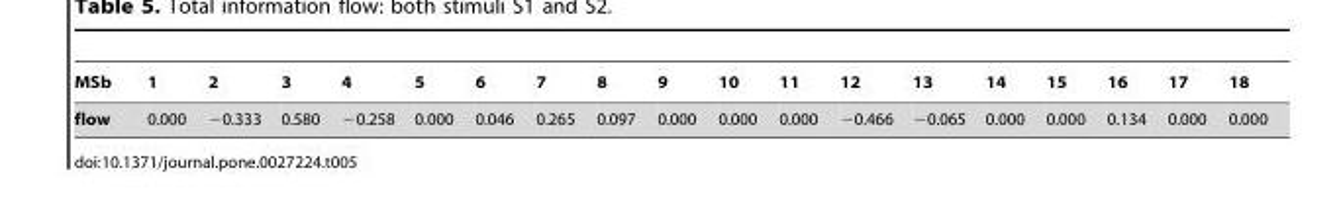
<table><thead><tr><td>MSb</td><td>1</td><td>2</td><td>3</td><td>4</td><td>5</td><td>6</td><td>7</td><td>8</td><td>9</td><td>10</td><td>11</td><td>12</td><td>13</td><td>14</td><td>15</td><td>16</td><td>17</td><td>18</td></tr></thead><tbody><tr><td>flow</td><td>0.000</td><td>−0.333</td><td>0.580</td><td>−0.258</td><td>0.000</td><td>0.046</td><td>0.265</td><td>0.097</td><td>0.000</td><td>0.000</td><td>0.000</td><td>−0.466</td><td>−0.065</td><td>0.000</td><td>0.000</td><td>0.134</td><td>0.000</td><td>0.000</td></tr></tbody></table>